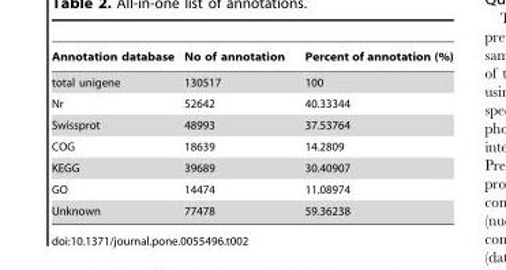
<table><thead><tr><td>Annotation database</td><td>No of annotation</td><td>Percent of annotation (%)</td></tr></thead><tbody><tr><td>total unigene</td><td>130517</td><td>100</td></tr><tr><td>Nr</td><td>52642</td><td>40.33344</td></tr><tr><td>Swissprot</td><td>48993</td><td>37.53764</td></tr><tr><td>COG</td><td>18639</td><td>14.2809</td></tr><tr><td>KEGG</td><td>39689</td><td>30.40907</td></tr><tr><td>GO</td><td>14474</td><td>11.08974</td></tr><tr><td>Unknown</td><td>77478</td><td>59.36238</td></tr></tbody></table>